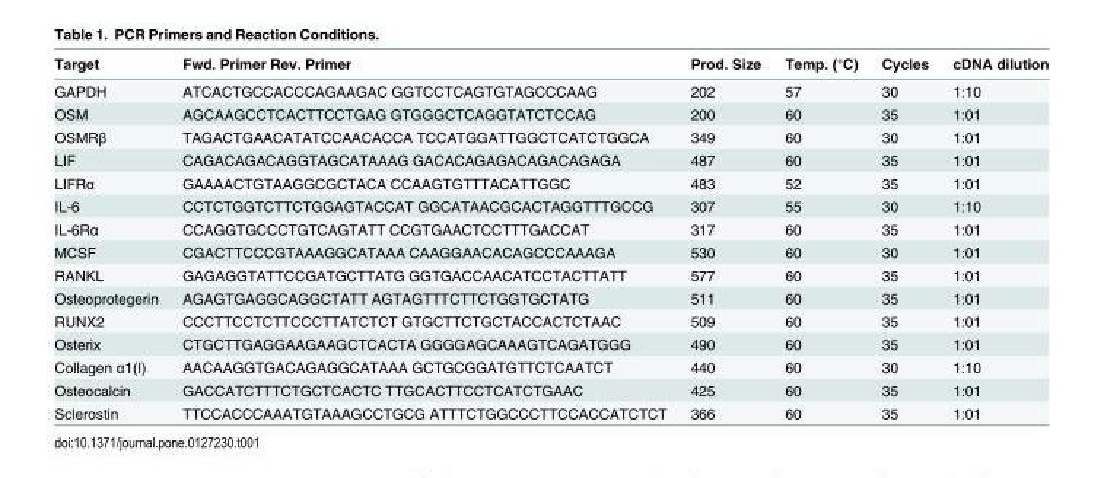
<table><thead><tr><td>Target</td><td>Fwd. Primer Rev. Primer</td><td>Prod. Size</td><td>Temp. (°C)</td><td>Cycles</td><td>cDNA dilution</td></tr></thead><tbody><tr><td>GAPDH</td><td>ATCACTGCCACCCAGAAGAC GGTCCTCAGTGTAGCCCAAG</td><td>202</td><td>57</td><td>30</td><td>1:10</td></tr><tr><td>OSM</td><td>AGCAAGCCTCACTTCCTGAG GTGGGCTCAGGTATCTCCAG</td><td>200</td><td>60</td><td>35</td><td>1:01</td></tr><tr><td>OSMRβ</td><td>TAGACTGAACATATCCAACACCA TCCATGGATTGGCTCATCTGGCA</td><td>349</td><td>60</td><td>30</td><td>1:01</td></tr><tr><td>LIF</td><td>CAGACAGACAGGTAGCATAAAG GACACAGAGACAGACAGAGA</td><td>487</td><td>60</td><td>35</td><td>1:01</td></tr><tr><td>LIFRα</td><td>GAAAACTGTAAGGCGCTACA CCAAGTGTTTACATTGGC</td><td>483</td><td>52</td><td>35</td><td>1:01</td></tr><tr><td>IL-6</td><td>CCTCTGGTCTTCTGGAGTACCAT GGCATAACGCACTAGGTTTGCCG</td><td>307</td><td>55</td><td>30</td><td>1:10</td></tr><tr><td>IL-6Rα</td><td>CCAGGTGCCCTGTCAGTATT CCGTGAACTCCTTTGACCAT</td><td>317</td><td>60</td><td>35</td><td>1:01</td></tr><tr><td>MCSF</td><td>CGACTTCCCGTAAAGGCATAAA CAAGGAACACAGCCCAAAGA</td><td>530</td><td>60</td><td>30</td><td>1:01</td></tr><tr><td>RANKL</td><td>GAGAGGTATTCCGATGCTTATG GGTGACCAACATCCTACTTATT</td><td>577</td><td>60</td><td>35</td><td>1:01</td></tr><tr><td>Osteoprotegerin</td><td>AGAGTGAGGCAGGCTATT AGTAGTTTCTTCTGGTGCTATG</td><td>511</td><td>60</td><td>35</td><td>1:01</td></tr><tr><td>RUNX2</td><td>CCCTTCCTCTTCCCTTATCTCT GTGCTTCTGCTACCACTCTAAC</td><td>509</td><td>60</td><td>35</td><td>1:01</td></tr><tr><td>Osterix</td><td>CTGCTTGAGGAAGAAGCTCACTA GGGGAGCAAAGTCAGATGGG</td><td>490</td><td>60</td><td>35</td><td>1:01</td></tr><tr><td>Collagen α1(I)</td><td>AACAAGGTGACAGAGGCATAAA GCTGCGGATGTTCTCAATCT</td><td>440</td><td>60</td><td>30</td><td>1:10</td></tr><tr><td>Osteocalcin</td><td>GACCATCTTTCTGCTCACTC TTGCACTTCCTCATCTGAAC</td><td>425</td><td>60</td><td>35</td><td>1:01</td></tr><tr><td>Sclerostin</td><td>TTCCACCCAAATGTAAAGCCTGCG ATTTCTGGCCCTTCCACCATCTCT</td><td>366</td><td>60</td><td>35</td><td>1:01</td></tr></tbody></table>